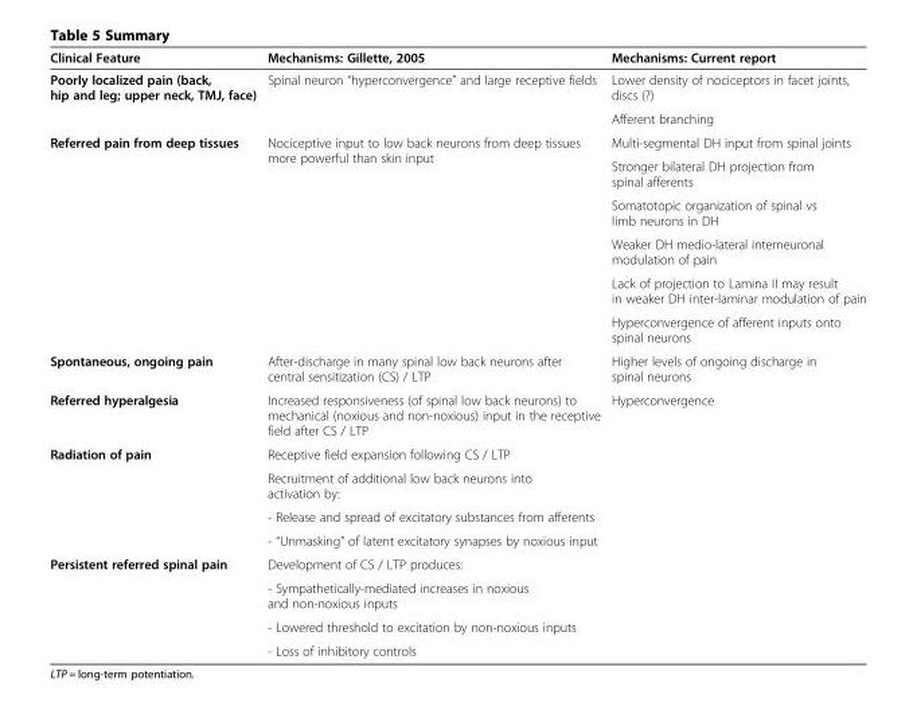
<table><thead><tr><td>Clinical Feature</td><td>Mechanisms: Gillette, 2005</td><td>Mechanisms: Current report</td></tr></thead><tbody><tr><td rowspan="2">Poorly localized pain (back, hip and leg; upper neck, TMJ, face)</td><td rowspan="2">Spinal neuron “hyperconvergence” and large receptive fields</td><td>Lower density of nociceptors in facet joints, discs (?)</td></tr><tr><td>Afferent branching</td></tr><tr><td rowspan="6">Referred pain from deep tissues</td><td rowspan="6">Nociceptive input to low back neurons from deep tissues more powerful than skin input</td><td>Multi-segmental DH input from spinal joints</td></tr><tr><td>Stronger bilateral DH projection from spinal afferents</td></tr><tr><td>Somatotopic organization of spinal vs limb neurons in DH</td></tr><tr><td>Weaker DH medio-lateral interneuronal modulation of pain</td></tr><tr><td>Lack of projection to Lamina II may result in weaker DH inter-laminar modulation of pain</td></tr><tr><td>Hyperconvergence of afferent inputs onto spinal neurons</td></tr><tr><td>Spontaneous, ongoing pain</td><td>After-discharge in many spinal low back neurons after central sensitization (CS) / LTP</td><td>Higher levels of ongoing discharge in spinal neurons</td></tr><tr><td>Referred hyperalgesia</td><td>Increased responsiveness (of spinal low back neurons) to mechanical (noxious and non-noxious) input in the receptive field after CS / LTP</td><td rowspan="7">Hyperconvergence</td></tr><tr><td rowspan="4">Radiation of pain</td><td>Receptive field expansion following CS / LTP</td></tr><tr><td>Recruitment of additional low back neurons into activation by:</td></tr><tr><td>- Release and spread of excitatory substances from afferents</td></tr><tr><td>- “Unmasking” of latent excitatory synapses by noxious input</td></tr><tr><td rowspan="4">Persistent referred spinal pain</td><td>Development of CS / LTP produces:</td></tr><tr><td>- Sympathetically-mediated increases in noxious and non-noxious inputs</td></tr><tr><td>- Lowered threshold to excitation by non-noxious inputs</td><td></td></tr><tr><td>- Loss of inhibitory controls</td><td></td></tr></tbody></table>